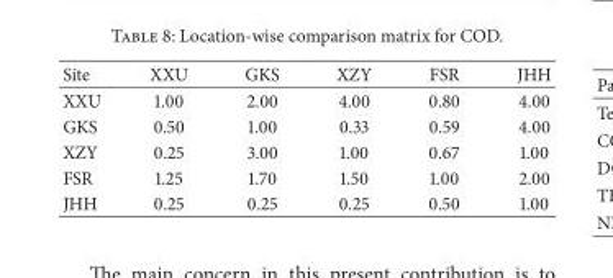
<table><thead><tr><td>Site</td><td>XXU</td><td>GKS</td><td>XZY</td><td>FSR</td><td>JHH</td></tr></thead><tbody><tr><td>XXU</td><td>1.00</td><td>2.00</td><td>4.00</td><td>0.80</td><td>4.00</td></tr><tr><td>GKS</td><td>0.50</td><td>1.00</td><td>0.33</td><td>0.59</td><td>4.00</td></tr><tr><td>XZY</td><td>0.25</td><td>3.00</td><td>1.00</td><td>0.67</td><td>1.00</td></tr><tr><td>FSR</td><td>1.25</td><td>1.70</td><td>1.50</td><td>1.00</td><td>2.00</td></tr><tr><td>JHH</td><td>0.25</td><td>0.25</td><td>0.25</td><td>0.50</td><td>1.00</td></tr></tbody></table>